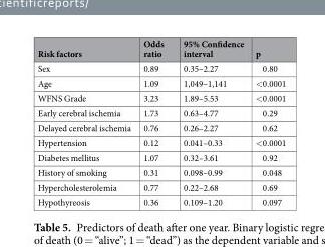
<table><thead><tr><td>Risk factors</td><td>Odds ratio</td><td>95% Confidence interval</td><td>p</td></tr></thead><tbody><tr><td>Sex</td><td>0.89</td><td>0.35–2.27</td><td>0.80</td></tr><tr><td>Age</td><td>1.09</td><td>1,049–1,141</td><td>&lt;0.0001</td></tr><tr><td>WFNS Grade</td><td>3.23</td><td>1.89–5.53</td><td>&lt;0.0001</td></tr><tr><td>Early cerebral ischemia</td><td>1.73</td><td>0.63–4.77</td><td>0.29</td></tr><tr><td>Delayed cerebral ischemia</td><td>0.76</td><td>0.26–2.27</td><td>0.62</td></tr><tr><td>Hypertension</td><td>0.12</td><td>0.041–0.33</td><td>&lt;0.0001</td></tr><tr><td>Diabetes mellitus</td><td>1.07</td><td>0.32–3.61</td><td>0.92</td></tr><tr><td>History of smoking</td><td>0.31</td><td>0.098–0.99</td><td>0.048</td></tr><tr><td>Hypercholesterolemia</td><td>0.77</td><td>0.22–2.68</td><td>0.69</td></tr><tr><td>Hypothyreosis</td><td>0.36</td><td>0.109–1.20</td><td>0.097</td></tr></tbody></table>